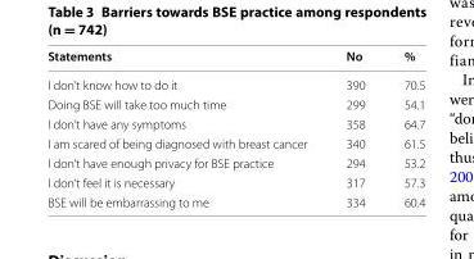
<table><thead><tr><td>Statements</td><td>No</td><td>%</td></tr></thead><tbody><tr><td>I don’t know how to do it</td><td>390</td><td>70.5</td></tr><tr><td>Doing BSE will take too much time</td><td>299</td><td>54.1</td></tr><tr><td>I don’t have any symptoms</td><td>358</td><td>64.7</td></tr><tr><td>I am scared of being diagnosed with breast cancer</td><td>340</td><td>61.5</td></tr><tr><td>I don’t have enough privacy for BSE practice</td><td>294</td><td>53.2</td></tr><tr><td>I don’t feel it is necessary</td><td>317</td><td>57.3</td></tr><tr><td>BSE will be embarrassing to me</td><td>334</td><td>60.4</td></tr></tbody></table>